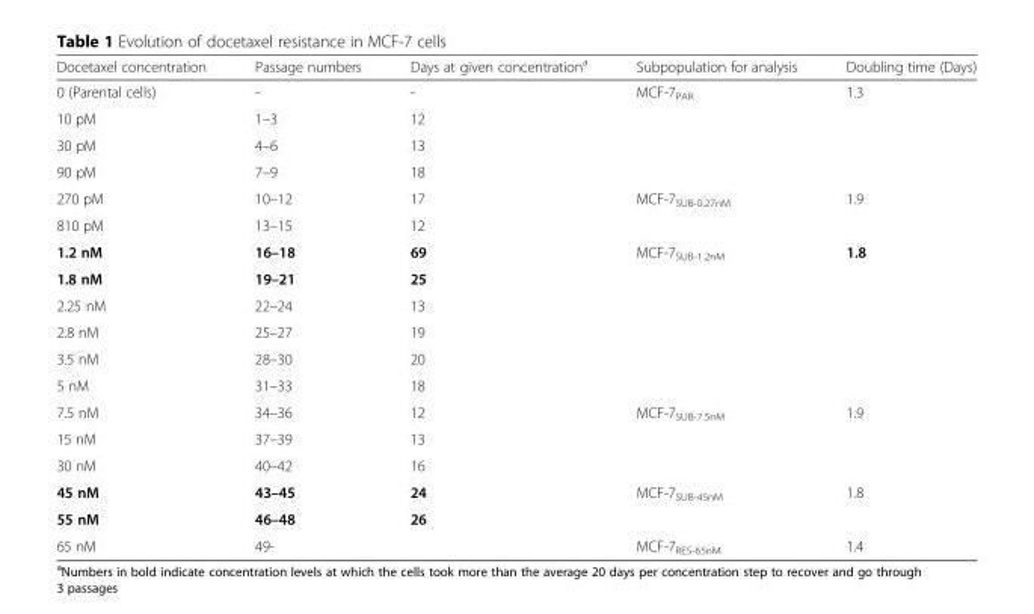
<table><thead><tr><td>Docetaxel concentration</td><td>Passage numbers</td><td>Days at given concentration<sup>a</sup></td><td>Subpopulation for analysis</td><td>Doubling time (Days)</td></tr></thead><tbody><tr><td>0 (Parental cells)</td><td>-</td><td>-</td><td>MCF-7<sub>PAR</sub></td><td>1.3</td></tr><tr><td>10 pM</td><td>1–3</td><td>12</td><td></td><td></td></tr><tr><td>30 pM</td><td>4–6</td><td>13</td><td></td><td></td></tr><tr><td>90 pM</td><td>7–9</td><td>18</td><td></td><td></td></tr><tr><td>270 pM</td><td>10–12</td><td>17</td><td>MCF-7<sub>SUB-0.27nM</sub></td><td>1.9</td></tr><tr><td>810 pM</td><td>13–15</td><td>12</td><td></td><td></td></tr><tr><td>1.2 nM</td><td>16–18</td><td>69</td><td>MCF-7<sub>SUB-1.2nM</sub></td><td>1.8</td></tr><tr><td>1.8 nM</td><td>19–21</td><td>25</td><td></td><td></td></tr><tr><td>2.25 nM</td><td>22–24</td><td>13</td><td></td><td></td></tr><tr><td>2.8 nM</td><td>25–27</td><td>19</td><td></td><td></td></tr><tr><td>3.5 nM</td><td>28–30</td><td>20</td><td></td><td></td></tr><tr><td>5 nM</td><td>31–33</td><td>18</td><td></td><td></td></tr><tr><td>7.5 nM</td><td>34–36</td><td>12</td><td>MCF-7<sub>SUB-7.5nM</sub></td><td>1.9</td></tr><tr><td>15 nM</td><td>37–39</td><td>13</td><td></td><td></td></tr><tr><td>30 nM</td><td>40–42</td><td>16</td><td></td><td></td></tr><tr><td>45 nM</td><td>43–45</td><td>24</td><td>MCF-7<sub>SUB-45nM</sub></td><td>1.8</td></tr><tr><td>55 nM</td><td>46–48</td><td>26</td><td></td><td></td></tr><tr><td>65 nM</td><td>49-</td><td></td><td>MCF-7<sub>RES-65nM</sub></td><td>1.4</td></tr></tbody></table>